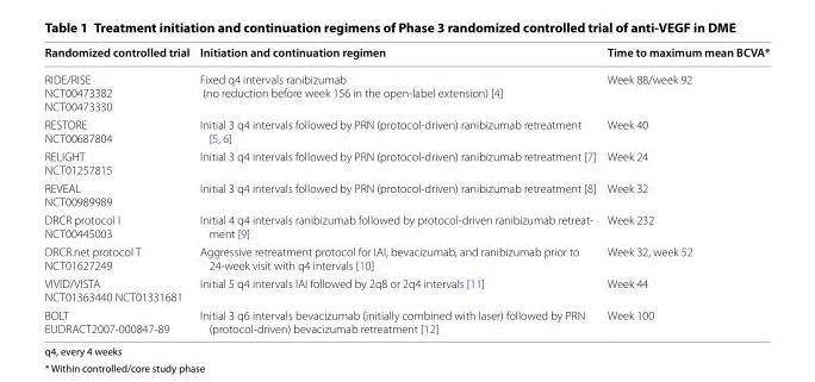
<table><thead><tr><td>Randomized controlled trial</td><td>Initiation and continuation regimen</td><td>Time to maximum mean BCVA*</td></tr></thead><tbody><tr><td>RIDE/RISE NCT00473382 NCT00473330</td><td>Fixed q4 intervals ranibizumab (no reduction before week 156 in the open-label extension) [4]</td><td>Week 88/week 92</td></tr><tr><td>RESTORE NCT00687804</td><td>Initial 3 q4 intervals followed by PRN (protocol-driven) ranibizumab retreatment [5, 6]</td><td>Week 40</td></tr><tr><td>RELIGHT NCT01257815</td><td>Initial 3 q4 intervals followed by PRN (protocol-driven) ranibizumab retreatment [7]</td><td>Week 24</td></tr><tr><td>REVEAL NCT00989989</td><td>Initial 3 q4 intervals followed by PRN (protocol-driven) ranibizumab retreatment [8]</td><td>Week 32</td></tr><tr><td>DRCR protocol I NCT00445003</td><td>Initial 4 q4 intervals ranibizumab followed by protocol-driven ranibizumab retreat- ment [9]</td><td>Week 232</td></tr><tr><td>DRCR.net protocol T NCT01627249</td><td>Aggressive retreatment protocol for IAI, bevacizumab, and ranibizumab prior to 24-week visit with q4 intervals [10]</td><td>Week 32, week 52</td></tr><tr><td>VIVID/VISTA NCT01363440 NCT01331681</td><td>Initial 5 q4 intervals IAI followed by 2q8 or 2q4 intervals [11]</td><td>Week 44</td></tr><tr><td>BOLT EUDRACT2007-000847-89</td><td>Initial 3 q6 intervals bevacizumab (initially combined with laser) followed by PRN (protocol-driven) bevacizumab retreatment [12]</td><td>Week 100</td></tr></tbody></table>